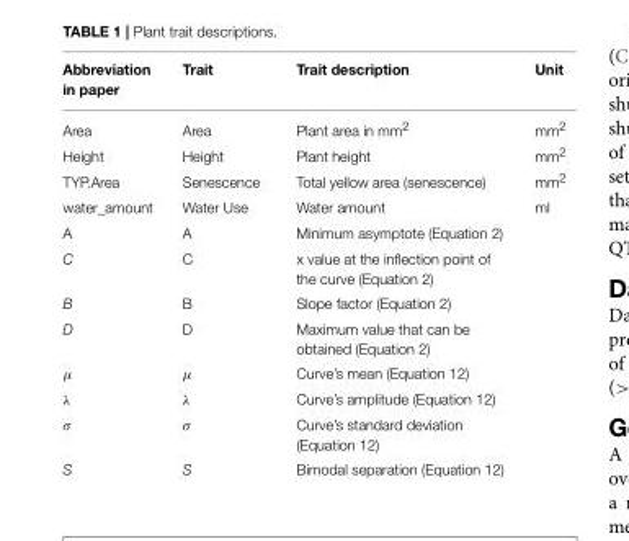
<table><thead><tr><td>Abbreviation in paper</td><td>Trait</td><td>Trait description</td><td>Unit</td></tr></thead><tbody><tr><td>Area</td><td>Area</td><td>Plant area in mm<sup>2</sup></td><td>mm<sup>2</sup></td></tr><tr><td>Height</td><td>Height</td><td>Plant height</td><td>mm<sup>2</sup></td></tr><tr><td>TYP.Area</td><td>Senescence</td><td>Total yellow area (senescence)</td><td>mm<sup>2</sup></td></tr><tr><td>water_amount</td><td>Water Use</td><td>Water amount</td><td>ml</td></tr><tr><td>A</td><td>A</td><td>Minimum asymptote (Equation 2)</td><td></td></tr><tr><td>C</td><td>C</td><td>x value at the inflection point of the curve (Equation 2)</td><td></td></tr><tr><td>B</td><td>B</td><td>Slope factor (Equation 2)</td><td></td></tr><tr><td>D</td><td>D</td><td>Maximum value that can be obtained (Equation 2)</td><td></td></tr><tr><td>µ</td><td>µ</td><td>Curve’s mean (Equation 12)</td><td></td></tr><tr><td>λ</td><td>λ</td><td>Curve’s amplitude (Equation 12)</td><td></td></tr><tr><td>σ</td><td>σ</td><td>Curve’s standard deviation (Equation 12)</td><td></td></tr><tr><td>S</td><td>S</td><td>Bimodal separation (Equation 12)</td><td></td></tr></tbody></table>